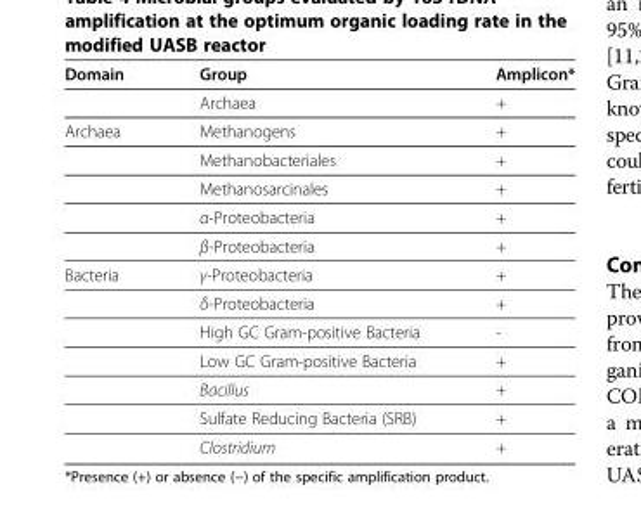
<table><thead><tr><td>Domain</td><td>Group</td><td>Amplicon*</td></tr></thead><tbody><tr><td></td><td>Archaea</td><td>+</td></tr><tr><td rowspan="5">Archaea</td><td>Methanogens</td><td>+</td></tr><tr><td>Methanobacteriales</td><td>+</td></tr><tr><td>Methanosarcinales</td><td>+</td></tr><tr><td>α-Proteobacteria</td><td>+</td></tr><tr><td>β-Proteobacteria</td><td>+</td></tr><tr><td rowspan="7">Bacteria</td><td>γ-Proteobacteria</td><td>+</td></tr><tr><td>δ-Proteobacteria</td><td>+</td></tr><tr><td>High GC Gram-positive Bacteria</td><td>-</td></tr><tr><td>Low GC Gram-positive Bacteria</td><td>+</td></tr><tr><td>Bacillus</td><td>+</td></tr><tr><td>Sulfate Reducing Bacteria (SRB)</td><td>+</td></tr><tr><td>Clostridium</td><td>+</td></tr></tbody></table>